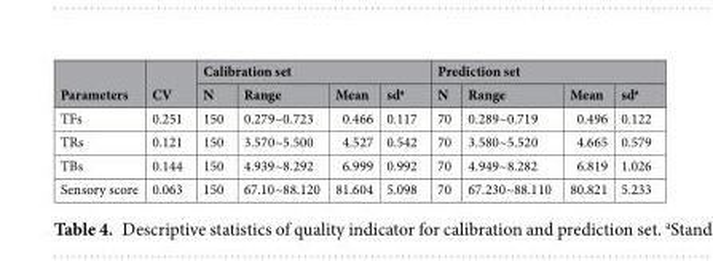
<table><thead><tr><td rowspan="2">Parameters</td><td rowspan="2">CV</td><td colspan="4">Calibration set</td><td colspan="4">Prediction set</td></tr><tr><td>N</td><td>Range</td><td>Mean</td><td>sd<sup>a</sup></td><td>N</td><td>Range</td><td>Mean</td><td>sd<sup>a</sup></td></tr></thead><tbody><tr><td>TFs</td><td>0.251</td><td>150</td><td>0.279~0.723</td><td>0.466</td><td>0.117</td><td>70</td><td>0.289~0.719</td><td>0.496</td><td>0.122</td></tr><tr><td>TRs</td><td>0.121</td><td>150</td><td>3.570~5.500</td><td>4.527</td><td>0.542</td><td>70</td><td>3.580~5.520</td><td>4.665</td><td>0.579</td></tr><tr><td>TBs</td><td>0.144</td><td>150</td><td>4.939~8.292</td><td>6.999</td><td>0.992</td><td>70</td><td>4.949~8.282</td><td>6.819</td><td>1.026</td></tr><tr><td>Sensory score</td><td>0.063</td><td>150</td><td>67.10~88.120</td><td>81.604</td><td>5.098</td><td>70</td><td>67.230~88.110</td><td>80.821</td><td>5.233</td></tr></tbody></table>